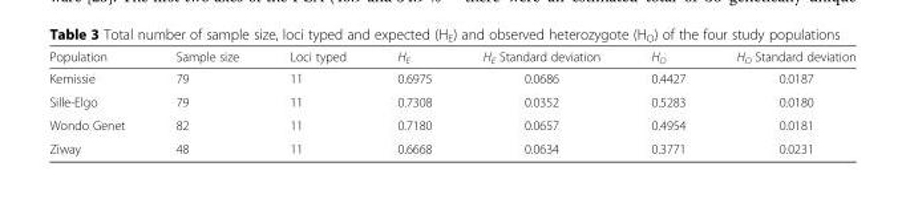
<table><thead><tr><td>Population</td><td>Sample size</td><td>Loci typed</td><td>H<sub>E</sub></td><td>H<sub>E</sub> Standard deviation</td><td>H<sub>O</sub></td><td>H<sub>O</sub> Standard deviation</td></tr></thead><tbody><tr><td>Kemissie</td><td>79</td><td>11</td><td>0.6975</td><td>0.0686</td><td>0.4427</td><td>0.0187</td></tr><tr><td>Sille-Elgo</td><td>79</td><td>11</td><td>0.7308</td><td>0.0352</td><td>0.5283</td><td>0.0180</td></tr><tr><td>Wondo Genet</td><td>82</td><td>11</td><td>0.7180</td><td>0.0657</td><td>0.4954</td><td>0.0181</td></tr><tr><td>Ziway</td><td>48</td><td>11</td><td>0.6668</td><td>0.0634</td><td>0.3771</td><td>0.0231</td></tr></tbody></table>